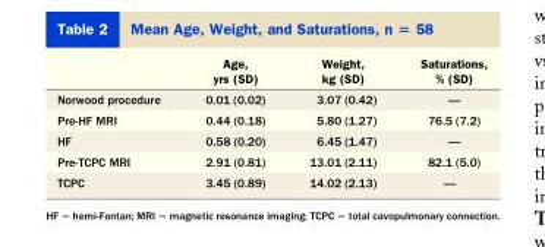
<table><thead><tr><td></td><td>Age, yrs (SD)</td><td>Weight, kg (SD)</td><td>Saturations, % (SD)</td></tr></thead><tbody><tr><td>Norwood procedure</td><td>0.01 (0.02)</td><td>3.07 (0.42)</td><td>—</td></tr><tr><td>Pre-HF MRI</td><td>0.44 (0.18)</td><td>5.80 (1.27)</td><td>76.5 (7.2)</td></tr><tr><td>HF</td><td>0.58 (0.20)</td><td>6.45 (1.47)</td><td>—</td></tr><tr><td>Pre-TCPC MRI</td><td>2.91 (0.81)</td><td>13.01 (2.11)</td><td>82.1 (5.0)</td></tr><tr><td>TCPC</td><td>3.45 (0.89)</td><td>14.02 (2.13)</td><td>—</td></tr></tbody></table>